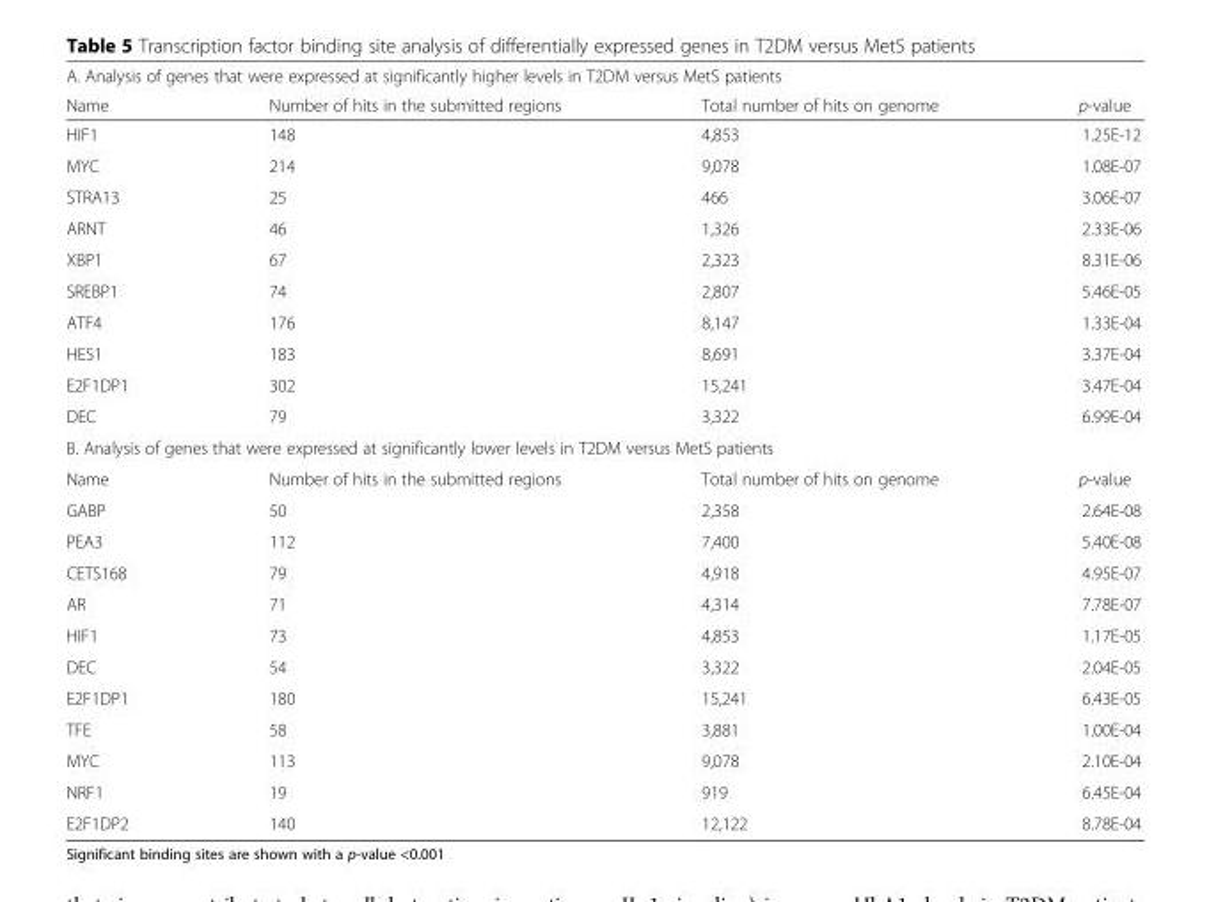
<table><thead><tr><td colspan="4">A. Analysis of genes that were expressed at significantly higher levels in T2DM versus MetS patients</td></tr><tr><td>Name</td><td>Number of hits in the submitted regions</td><td>Total number of hits on genome</td><td>p-value</td></tr></thead><tbody><tr><td>HIF1</td><td>148</td><td>4,853</td><td>1.25E-12</td></tr><tr><td>MYC</td><td>214</td><td>9,078</td><td>1.08E-07</td></tr><tr><td>STRA13</td><td>25</td><td>466</td><td>3.06E-07</td></tr><tr><td>ARNT</td><td>46</td><td>1,326</td><td>2.33E-06</td></tr><tr><td>XBP1</td><td>67</td><td>2,323</td><td>8.31E-06</td></tr><tr><td>SREBP1</td><td>74</td><td>2,807</td><td>5.46E-05</td></tr><tr><td>ATF4</td><td>176</td><td>8,147</td><td>1.33E-04</td></tr><tr><td>HES1</td><td>183</td><td>8,691</td><td>3.37E-04</td></tr><tr><td>E2F1DP1</td><td>302</td><td>15,241</td><td>3.47E-04</td></tr><tr><td>DEC</td><td>79</td><td>3,322</td><td>6.99E-04</td></tr><tr><td colspan="4">B. Analysis of genes that were expressed at significantly lower levels in T2DM versus MetS patients</td></tr><tr><td>Name</td><td>Number of hits in the submitted regions</td><td>Total number of hits on genome</td><td>p-value</td></tr><tr><td>GABP</td><td>50</td><td>2,358</td><td>2.64E-08</td></tr><tr><td>PEA3</td><td>112</td><td>7,400</td><td>5.40E-08</td></tr><tr><td>CETS168</td><td>79</td><td>4,918</td><td>4.95E-07</td></tr><tr><td>AR</td><td>71</td><td>4,314</td><td>7.78E-07</td></tr><tr><td>HIF1</td><td>73</td><td>4,853</td><td>1.17E-05</td></tr><tr><td>DEC</td><td>54</td><td>3,322</td><td>2.04E-05</td></tr><tr><td>E2F1DP1</td><td>180</td><td>15,241</td><td>6.43E-05</td></tr><tr><td>TFE</td><td>58</td><td>3,881</td><td>1.00E-04</td></tr><tr><td>MYC</td><td>113</td><td>9,078</td><td>2.10E-04</td></tr><tr><td>NRF1</td><td>19</td><td>919</td><td>6.45E-04</td></tr><tr><td>E2F1DP2</td><td>140</td><td>12,122</td><td>8.78E-04</td></tr></tbody></table>